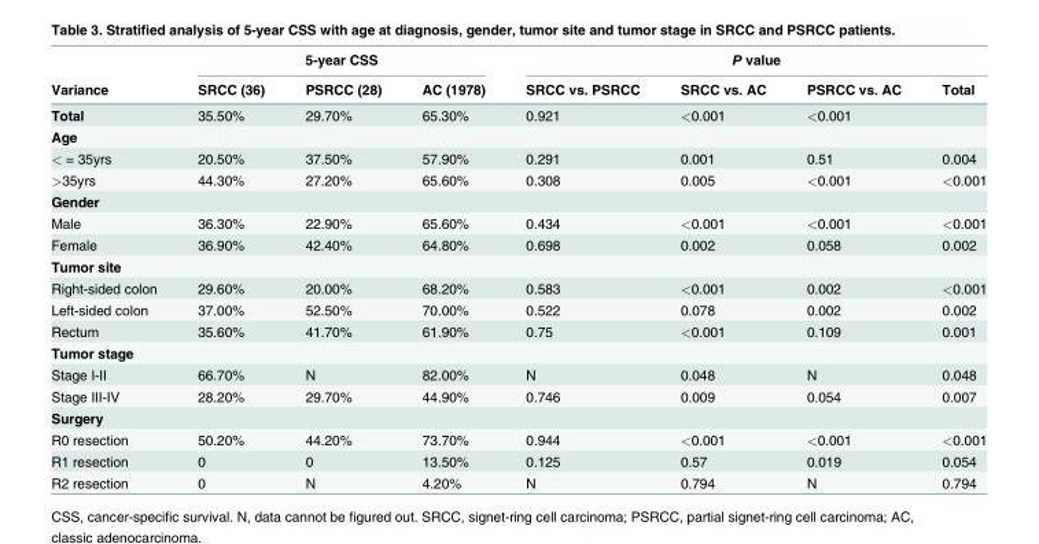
<table><thead><tr><td rowspan="2">Variance</td><td colspan="3">5-year CSS</td><td colspan="4">P value</td></tr><tr><td>SRCC (36)</td><td>PSRCC (28)</td><td>AC (1978)</td><td>SRCC vs. PSRCC</td><td>SRCC vs. AC</td><td>PSRCC vs. AC</td><td>Total</td></tr></thead><tbody><tr><td>Total</td><td>35.50%</td><td>29.70%</td><td>65.30%</td><td>0.921</td><td>&lt;0.001</td><td>&lt;0.001</td><td></td></tr><tr><td colspan="8">Age</td></tr><tr><td>&lt; = 35yrs</td><td>20.50%</td><td>37.50%</td><td>57.90%</td><td>0.291</td><td>0.001</td><td>0.51</td><td>0.004</td></tr><tr><td>&gt;35yrs</td><td>44.30%</td><td>27.20%</td><td>65.60%</td><td>0.308</td><td>0.005</td><td>&lt;0.001</td><td>&lt;0.001</td></tr><tr><td colspan="8">Gender</td></tr><tr><td>Male</td><td>36.30%</td><td>22.90%</td><td>65.60%</td><td>0.434</td><td>&lt;0.001</td><td>&lt;0.001</td><td>&lt;0.001</td></tr><tr><td>Female</td><td>36.90%</td><td>42.40%</td><td>64.80%</td><td>0.698</td><td>0.002</td><td>0.058</td><td>0.002</td></tr><tr><td colspan="8">Tumor site</td></tr><tr><td>Right-sided colon</td><td>29.60%</td><td>20.00%</td><td>68.20%</td><td>0.583</td><td>&lt;0.001</td><td>0.002</td><td>&lt;0.001</td></tr><tr><td>Left-sided colon</td><td>37.00%</td><td>52.50%</td><td>70.00%</td><td>0.522</td><td>0.078</td><td>0.002</td><td>0.002</td></tr><tr><td>Rectum</td><td>35.60%</td><td>41.70%</td><td>61.90%</td><td>0.75</td><td>&lt;0.001</td><td>0.109</td><td>0.001</td></tr><tr><td colspan="8">Tumor stage</td></tr><tr><td>Stage I-II</td><td>66.70%</td><td>N</td><td>82.00%</td><td>N</td><td>0.048</td><td>N</td><td>0.048</td></tr><tr><td>Stage III-IV</td><td>28.20%</td><td>29.70%</td><td>44.90%</td><td>0.746</td><td>0.009</td><td>0.054</td><td>0.007</td></tr><tr><td colspan="8">Surgery</td></tr><tr><td>R0 resection</td><td>50.20%</td><td>44.20%</td><td>73.70%</td><td>0.944</td><td>&lt;0.001</td><td>&lt;0.001</td><td>&lt;0.001</td></tr><tr><td>R1 resection</td><td>0</td><td>0</td><td>13.50%</td><td>0.125</td><td>0.57</td><td>0.019</td><td>0.054</td></tr><tr><td>R2 resection</td><td>0</td><td>N</td><td>4.20%</td><td>N</td><td>0.794</td><td>N</td><td>0.794</td></tr></tbody></table>